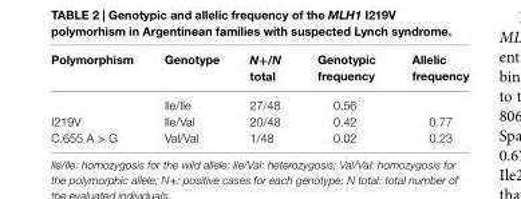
<table><thead><tr><td>polymorphism</td><td>Genotype</td><td>N+/N total</td><td>Genotypic frequency</td><td>allelic frequency</td></tr></thead><tbody><tr><td></td><td>Ile/Ile</td><td>27/48</td><td>0.56</td><td></td></tr><tr><td>I219V</td><td>Ile/Val</td><td>20/48</td><td>0.42</td><td>0.77</td></tr><tr><td>C.655 A &gt; G</td><td>Val/Val</td><td>1/48</td><td>0.02</td><td>0.23</td></tr></tbody></table>